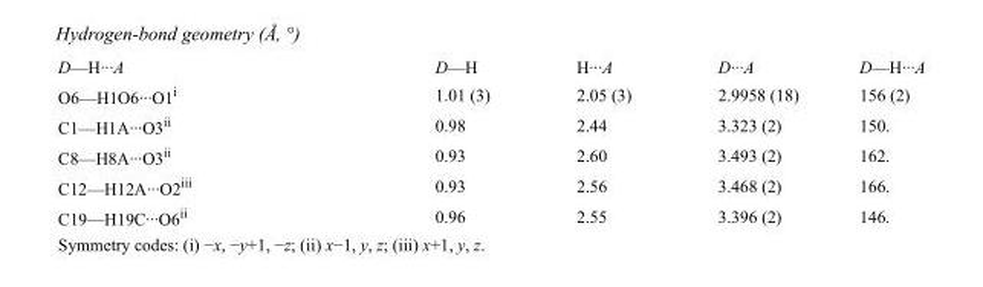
<table><tbody><tr><td>D—H···A</td><td>D—H</td><td>H···A</td><td>D···A</td><td>D—H···A</td></tr><tr><td>O6—H1O6···O1<sup>i</sup></td><td>1.01 (3)</td><td>2.05 (3)</td><td>2.9958 (18)</td><td>156 (2)</td></tr><tr><td>C1—H1A···O3<sup>ii</sup></td><td>0.98</td><td>2.44</td><td>3.323 (2)</td><td>150.</td></tr><tr><td>C8—H8A···O3<sup>ii</sup></td><td>0.93</td><td>2.60</td><td>3.493 (2)</td><td>162.</td></tr><tr><td>C12—H12A···O2<sup>iii</sup></td><td>0.93</td><td>2.56</td><td>3.468 (2)</td><td>166.</td></tr><tr><td>C19—H19C···O6<sup>ii</sup></td><td>0.96</td><td>2.55</td><td>3.396 (2)</td><td>146.</td></tr></tbody></table>